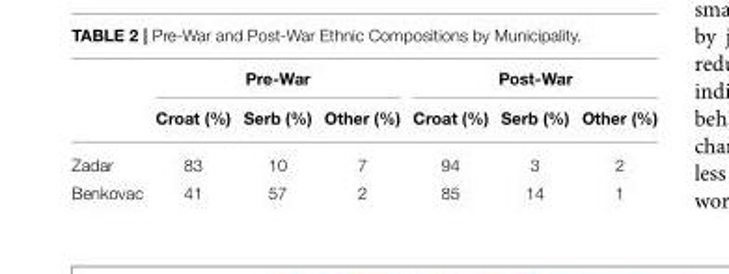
<table><thead><tr><td rowspan="2"></td><td colspan="3">Pre-War</td><td colspan="3">Post-War</td></tr><tr><td>Croat (%)</td><td>Serb (%)</td><td>Other (%)</td><td>Croat (%)</td><td>Serb (%)</td><td>Other (%)</td></tr></thead><tbody><tr><td>Zadar</td><td>83</td><td>10</td><td>7</td><td>94</td><td>3</td><td>2</td></tr><tr><td>Benkovac</td><td>41</td><td>57</td><td>2</td><td>85</td><td>14</td><td>1</td></tr></tbody></table>